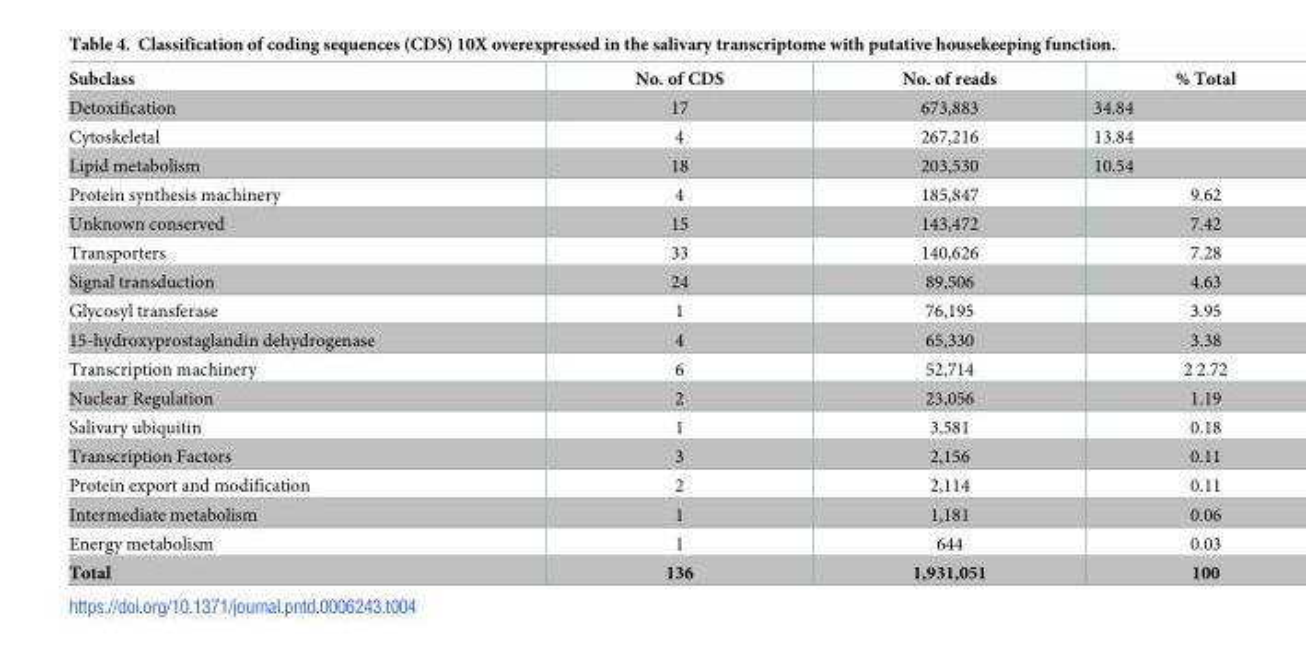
<table><thead><tr><td>Subclass</td><td>No. of CDS</td><td>No. of reads</td><td>% Total</td></tr></thead><tbody><tr><td>Detoxification</td><td>17</td><td>673,883</td><td>34.84</td></tr><tr><td>Cytoskeletal</td><td>4</td><td>267,216</td><td>13.84</td></tr><tr><td>Lipid metabolism</td><td>18</td><td>203,530</td><td>10.54</td></tr><tr><td>Protein synthesis machinery</td><td>4</td><td>185,847</td><td>9.62</td></tr><tr><td>Unknown conserved</td><td>15</td><td>143,472</td><td>7.42</td></tr><tr><td>Transporters</td><td>33</td><td>140,626</td><td>7.28</td></tr><tr><td>Signal transduction</td><td>24</td><td>89,506</td><td>4.63</td></tr><tr><td>Glycosyl transferase</td><td>1</td><td>76,195</td><td>3.95</td></tr><tr><td>15-hydroxyprostaglandin dehydrogenase</td><td>4</td><td>65,330</td><td>3.38</td></tr><tr><td>Transcription machinery</td><td>6</td><td>52,714</td><td>2 2.72</td></tr><tr><td>Nuclear Regulation</td><td>2</td><td>23,056</td><td>1.19</td></tr><tr><td>Salivary ubiquitin</td><td>1</td><td>3,581</td><td>0.18</td></tr><tr><td>Transcription Factors</td><td>3</td><td>2,156</td><td>0.11</td></tr><tr><td>Protein export and modification</td><td>2</td><td>2,114</td><td>0.11</td></tr><tr><td>Intermediate metabolism</td><td>1</td><td>1,181</td><td>0.06</td></tr><tr><td>Energy metabolism</td><td>1</td><td>644</td><td>0.03</td></tr><tr><td>Total</td><td>136</td><td>1,931,051</td><td>100</td></tr></tbody></table>